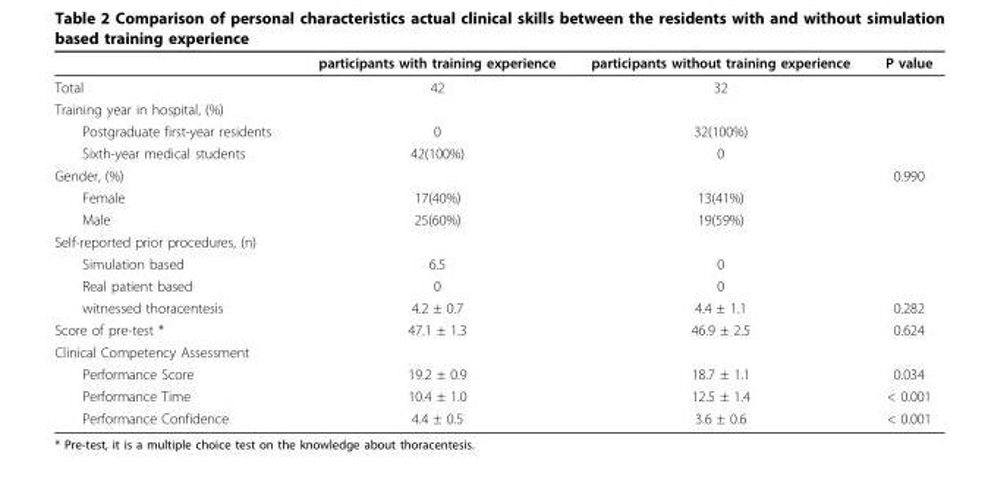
<table><thead><tr><td></td><td>participants with training experience</td><td>participants without training experience</td><td>P value</td></tr></thead><tbody><tr><td>Total</td><td>42</td><td>32</td><td></td></tr><tr><td colspan="4">Training year in hospital, (%)</td></tr><tr><td>Postgraduate first-year residents</td><td>0</td><td>32(100%)</td><td></td></tr><tr><td>Sixth-year medical students</td><td>42(100%)</td><td>0</td><td></td></tr><tr><td>Gender, (%)</td><td></td><td></td><td>0.990</td></tr><tr><td>Female</td><td>17(40%)</td><td>13(41%)</td><td></td></tr><tr><td>Male</td><td>25(60%)</td><td>19(59%)</td><td></td></tr><tr><td colspan="4">Self-reported prior procedures, (n)</td></tr><tr><td>Simulation based</td><td>6.5</td><td>0</td><td></td></tr><tr><td>Real patient based</td><td>0</td><td>0</td><td></td></tr><tr><td>witnessed thoracentesis</td><td>4.2 ± 0.7</td><td>4.4 ± 1.1</td><td>0.282</td></tr><tr><td>Score of pre-test *</td><td>47.1 ± 1.3</td><td>46.9 ± 2.5</td><td>0.624</td></tr><tr><td colspan="4">Clinical Competency Assessment</td></tr><tr><td>Performance Score</td><td>19.2 ± 0.9</td><td>18.7 ± 1.1</td><td>0.034</td></tr><tr><td>Performance Time</td><td>10.4 ± 1.0</td><td>12.5 ± 1.4</td><td>&lt; 0.001</td></tr><tr><td>Performance Confidence</td><td>4.4 ± 0.5</td><td>3.6 ± 0.6</td><td>&lt; 0.001</td></tr></tbody></table>